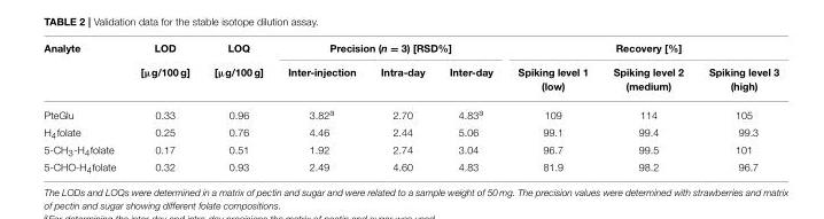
<table><thead><tr><td rowspan="2">Analyte</td><td rowspan="2">LOD [µg/100 g]</td><td rowspan="2">LOQ [µg/100 g]</td><td colspan="3">Precision (n = 3) [RSD%]</td><td colspan="3">Recovery [%]</td></tr><tr><td>Inter-injection</td><td>Intra-day</td><td>Inter-day</td><td>Spiking level 1 (low)</td><td>Spiking level 2 (medium)</td><td>Spiking level 3 (high)</td></tr></thead><tbody><tr><td>PteGlu</td><td>0.33</td><td>0.96</td><td>3.82<sup>a</sup></td><td>2.70</td><td>4.83<sup>a</sup></td><td>109</td><td>114</td><td>105</td></tr><tr><td>H<sub>4</sub>folate</td><td>0.25</td><td>0.76</td><td>4.46</td><td>2.44</td><td>5.06</td><td>99.1</td><td>99.4</td><td>99.3</td></tr><tr><td>5-CH<sub>3</sub>-H<sub>4</sub>folate</td><td>0.17</td><td>0.51</td><td>1.92</td><td>2.74</td><td>3.04</td><td>96.7</td><td>99.5</td><td>101</td></tr><tr><td>5-CHO-H<sub>4</sub>folate</td><td>0.32</td><td>0.93</td><td>2.49</td><td>4.60</td><td>4.83</td><td>81.9</td><td>98.2</td><td>96.7</td></tr></tbody></table>